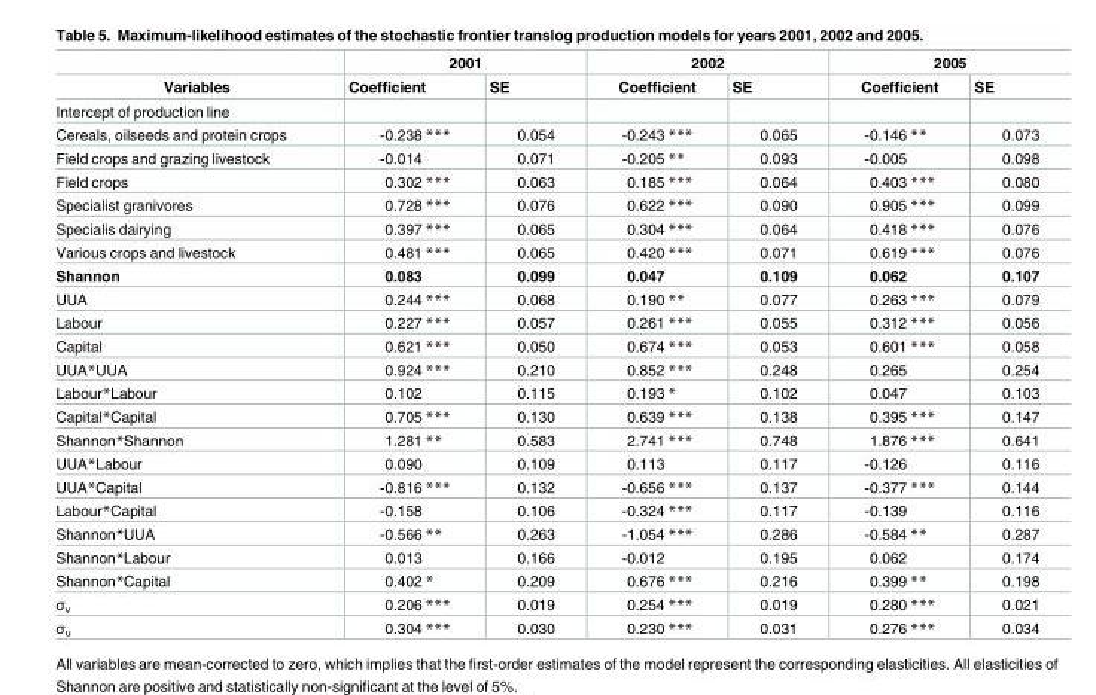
<table><thead><tr><td rowspan="2">Variables</td><td colspan="2">2001</td><td colspan="2">2002</td><td colspan="2">2005</td></tr><tr><td>Coefficient</td><td>SE</td><td>Coefficient</td><td>SE</td><td>Coefficient</td><td>SE</td></tr></thead><tbody><tr><td colspan="7">Intercept of production line</td></tr><tr><td>Cereals, oilseeds and protein crops</td><td>-0.238 ***</td><td>0.054</td><td>-0.243 ***</td><td>0.065</td><td>-0.146 **</td><td>0.073</td></tr><tr><td>Field crops and grazing livestock</td><td>-0.014</td><td>0.071</td><td>-0.205 **</td><td>0.093</td><td>-0.005</td><td>0.098</td></tr><tr><td>Field crops</td><td>0.302 ***</td><td>0.063</td><td>0.185 ***</td><td>0.064</td><td>0.403 ***</td><td>0.080</td></tr><tr><td>Specialist granivores</td><td>0.728 ***</td><td>0.076</td><td>0.622 ***</td><td>0.090</td><td>0.905 ***</td><td>0.099</td></tr><tr><td>Specialis dairying</td><td>0.397 ***</td><td>0.065</td><td>0.304 ***</td><td>0.064</td><td>0.418 ***</td><td>0.076</td></tr><tr><td>Various crops and livestock</td><td>0.481 ***</td><td>0.065</td><td>0.420 ***</td><td>0.071</td><td>0.619 ***</td><td>0.076</td></tr><tr><td>Shannon</td><td>0.083</td><td>0.099</td><td>0.047</td><td>0.109</td><td>0.062</td><td>0.107</td></tr><tr><td>UUA</td><td>0.244 ***</td><td>0.068</td><td>0.190 **</td><td>0.077</td><td>0.263 ***</td><td>0.079</td></tr><tr><td>Labour</td><td>0.227 ***</td><td>0.057</td><td>0.261 ***</td><td>0.055</td><td>0.312 ***</td><td>0.056</td></tr><tr><td>Capital</td><td>0.621 ***</td><td>0.050</td><td>0.674 ***</td><td>0.053</td><td>0.601 ***</td><td>0.058</td></tr><tr><td>UUA*UUA</td><td>0.924 ***</td><td>0.210</td><td>0.852 ***</td><td>0.248</td><td>0.265</td><td>0.254</td></tr><tr><td>Labour*Labour</td><td>0.102</td><td>0.115</td><td>0.193 *</td><td>0.102</td><td>0.047</td><td>0.103</td></tr><tr><td>Capital*Capital</td><td>0.705 ***</td><td>0.130</td><td>0.639 ***</td><td>0.138</td><td>0.395 ***</td><td>0.147</td></tr><tr><td>Shannon*Shannon</td><td>1.281 **</td><td>0.583</td><td>2.741 ***</td><td>0.748</td><td>1.876 ***</td><td>0.641</td></tr><tr><td>UUA*Labour</td><td>0.090</td><td>0.109</td><td>0.113</td><td>0.117</td><td>-0.126</td><td>0.116</td></tr><tr><td>UUA*Capital</td><td>-0.816 ***</td><td>0.132</td><td>-0.656 ***</td><td>0.137</td><td>-0.377 ***</td><td>0.144</td></tr><tr><td>Labour*Capital</td><td>-0.158</td><td>0.106</td><td>-0.324 ***</td><td>0.117</td><td>-0.139</td><td>0.116</td></tr><tr><td>Shannon*UUA</td><td>-0.566 **</td><td>0.263</td><td>-1.054 ***</td><td>0.286</td><td>-0.584 **</td><td>0.287</td></tr><tr><td>Shannon*Labour</td><td>0.013</td><td>0.166</td><td>-0.012</td><td>0.195</td><td>0.062</td><td>0.174</td></tr><tr><td>Shannon*Capital</td><td>0.402 *</td><td>0.209</td><td>0.676 ***</td><td>0.216</td><td>0.399 **</td><td>0.198</td></tr><tr><td>σ<sub>v</sub></td><td>0.206 ***</td><td>0.019</td><td>0.254 ***</td><td>0.019</td><td>0.280 ***</td><td>0.021</td></tr><tr><td>σ<sub>u</sub></td><td>0.304 ***</td><td>0.030</td><td>0.230 ***</td><td>0.031</td><td>0.276 ***</td><td>0.034</td></tr></tbody></table>